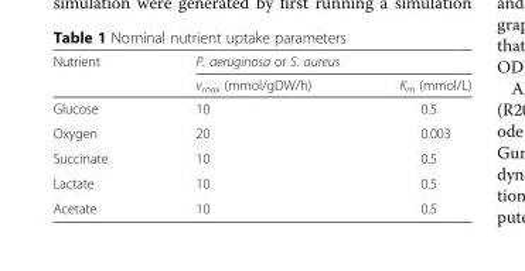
<table><thead><tr><td rowspan="2">Nutrient</td><td colspan="2">P. aeruginosa or S. aureus</td></tr><tr><td>v<sub>max</sub> (mmol/gDW/h)</td><td>K<sub>m</sub> (mmol/L)</td></tr></thead><tbody><tr><td>Glucose</td><td>10</td><td>0.5</td></tr><tr><td>Oxygen</td><td>20</td><td>0.003</td></tr><tr><td>Succinate</td><td>10</td><td>0.5</td></tr><tr><td>Lactate</td><td>10</td><td>0.5</td></tr><tr><td>Acetate</td><td>10</td><td>0.5</td></tr></tbody></table>